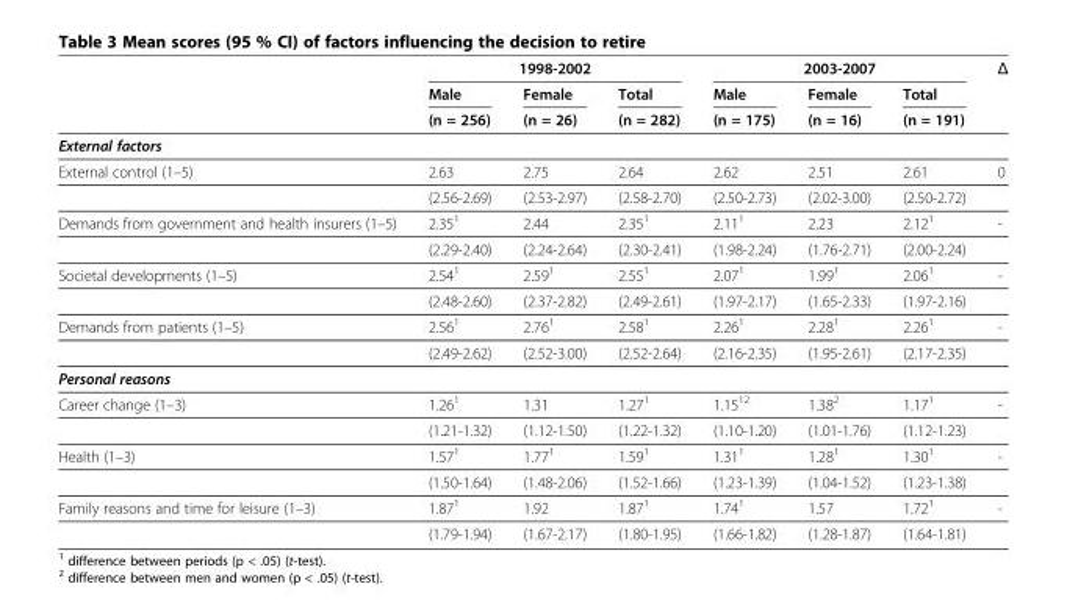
<table><thead><tr><td rowspan="3"></td><td colspan="3">1998-2002</td><td colspan="3">2003-2007</td><td rowspan="3">Δ</td></tr><tr><td rowspan="2">Male (n = 256)</td><td rowspan="2">Female (n = 26)</td><td rowspan="2">Total (n = 282)</td><td rowspan="2">Male (n = 175)</td><td rowspan="2">Female (n = 16)</td><td rowspan="2">Total (n = 191)</td></tr><tr></tr></thead><tbody><tr><td colspan="8">External factors</td></tr><tr><td rowspan="2">External control (1–5)</td><td>2.63</td><td>2.75</td><td>2.64</td><td>2.62</td><td>2.51</td><td>2.61</td><td>0</td></tr><tr><td>(2.56-2.69)</td><td>(2.53-2.97)</td><td>(2.58-2.70)</td><td>(2.50-2.73)</td><td>(2.02-3.00)</td><td>(2.50-2.72)</td><td></td></tr><tr><td rowspan="2">Demands from government and health insurers (1–5)</td><td>2.35<sup>1</sup></td><td>2.44</td><td>2.35<sup>1</sup></td><td>2.11<sup>1</sup></td><td>2.23</td><td>2.12<sup>1</sup></td><td>-</td></tr><tr><td>(2.29-2.40)</td><td>(2.24-2.64)</td><td>(2.30-2.41)</td><td>(1.98-2.24)</td><td>(1.76-2.71)</td><td>(2.00-2.24)</td><td></td></tr><tr><td rowspan="2">Societal developments (1–5)</td><td>2.54<sup>1</sup></td><td>2.59<sup>1</sup></td><td>2.55<sup>1</sup></td><td>2.07<sup>1</sup></td><td>1.99<sup>1</sup></td><td>2.06<sup>1</sup></td><td>-</td></tr><tr><td>(2.48-2.60)</td><td>(2.37-2.82)</td><td>(2.49-2.61)</td><td>(1.97-2.17)</td><td>(1.65-2.33)</td><td>(1.97-2.16)</td><td></td></tr><tr><td rowspan="2">Demands from patients (1–5)</td><td>2.56<sup>1</sup></td><td>2.76<sup>1</sup></td><td>2.58<sup>1</sup></td><td>2.26<sup>1</sup></td><td>2.28<sup>1</sup></td><td>2.26<sup>1</sup></td><td>-</td></tr><tr><td>(2.49-2.62)</td><td>(2.52-3.00)</td><td>(2.52-2.64)</td><td>(2.16-2.35)</td><td>(1.95-2.61)</td><td>(2.17-2.35)</td><td></td></tr><tr><td colspan="8">Personal reasons</td></tr><tr><td rowspan="2">Career change (1–3)</td><td>1.26<sup>1</sup></td><td>1.31</td><td>1.27<sup>1</sup></td><td>1.15<sup>12</sup></td><td>1.38<sup>2</sup></td><td>1.17<sup>1</sup></td><td>-</td></tr><tr><td>(1.21-1.32)</td><td>(1.12-1.50)</td><td>(1.22-1.32)</td><td>(1.10-1.20)</td><td>(1.01-1.76)</td><td>(1.12-1.23)</td><td></td></tr><tr><td rowspan="2">Health (1–3)</td><td>1.57<sup>1</sup></td><td>1.77<sup>1</sup></td><td>1.59<sup>1</sup></td><td>1.31<sup>1</sup></td><td>1.28<sup>1</sup></td><td>1.30<sup>1</sup></td><td>-</td></tr><tr><td>(1.50-1.64)</td><td>(1.48-2.06)</td><td>(1.52-1.66)</td><td>(1.23-1.39)</td><td>(1.04-1.52)</td><td>(1.23-1.38)</td><td></td></tr><tr><td rowspan="2">Family reasons and time for leisure (1–3)</td><td>1.87<sup>1</sup></td><td>1.92</td><td>1.87<sup>1</sup></td><td>1.74<sup>1</sup></td><td>1.57</td><td>1.72<sup>1</sup></td><td>-</td></tr><tr><td>(1.79-1.94)</td><td>(1.67-2.17)</td><td>(1.80-1.95)</td><td>(1.66-1.82)</td><td>(1.28-1.87)</td><td>(1.64-1.81)</td><td></td></tr></tbody></table>